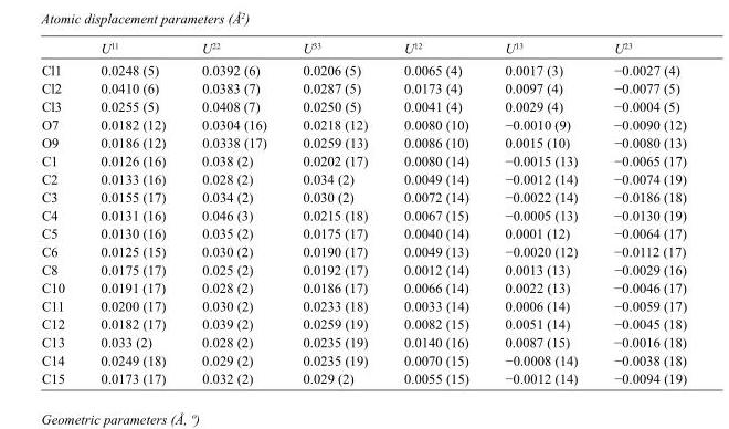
<table><thead><tr><td></td><td>U<sup>11</sup></td><td>U<sup>22</sup></td><td>U<sup>33</sup></td><td>U<sup>12</sup></td><td>U<sup>13</sup></td><td>U<sup>23</sup></td></tr></thead><tbody><tr><td>Cl1</td><td>0.0248 (5)</td><td>0.0392 (6)</td><td>0.0206 (5)</td><td>0.0065 (4)</td><td>0.0017 (3)</td><td>−0.0027 (4)</td></tr><tr><td>Cl2</td><td>0.0410 (6)</td><td>0.0383 (7)</td><td>0.0287 (5)</td><td>0.0173 (4)</td><td>0.0097 (4)</td><td>−0.0077 (5)</td></tr><tr><td>Cl3</td><td>0.0255 (5)</td><td>0.0408 (7)</td><td>0.0250 (5)</td><td>0.0041 (4)</td><td>0.0029 (4)</td><td>−0.0004 (5)</td></tr><tr><td>O7</td><td>0.0182 (12)</td><td>0.0304 (16)</td><td>0.0218 (12)</td><td>0.0080 (10)</td><td>−0.0010 (9)</td><td>−0.0090 (12)</td></tr><tr><td>O9</td><td>0.0186 (12)</td><td>0.0338 (17)</td><td>0.0259 (13)</td><td>0.0086 (10)</td><td>0.0015 (10)</td><td>−0.0080 (13)</td></tr><tr><td>C1</td><td>0.0126 (16)</td><td>0.038 (2)</td><td>0.0202 (17)</td><td>0.0080 (14)</td><td>−0.0015 (13)</td><td>−0.0065 (17)</td></tr><tr><td>C2</td><td>0.0133 (16)</td><td>0.028 (2)</td><td>0.034 (2)</td><td>0.0049 (14)</td><td>−0.0012 (14)</td><td>−0.0074 (19)</td></tr><tr><td>C3</td><td>0.0155 (17)</td><td>0.034 (2)</td><td>0.030 (2)</td><td>0.0072 (14)</td><td>−0.0022 (14)</td><td>−0.0186 (18)</td></tr><tr><td>C4</td><td>0.0131 (16)</td><td>0.046 (3)</td><td>0.0215 (18)</td><td>0.0067 (15)</td><td>−0.0005 (13)</td><td>−0.0130 (19)</td></tr><tr><td>C5</td><td>0.0130 (16)</td><td>0.035 (2)</td><td>0.0175 (17)</td><td>0.0040 (14)</td><td>0.0001 (12)</td><td>−0.0064 (17)</td></tr><tr><td>C6</td><td>0.0125 (15)</td><td>0.030 (2)</td><td>0.0190 (17)</td><td>0.0049 (13)</td><td>−0.0020 (12)</td><td>−0.0112 (17)</td></tr><tr><td>C8</td><td>0.0175 (17)</td><td>0.025 (2)</td><td>0.0192 (17)</td><td>0.0012 (14)</td><td>0.0013 (13)</td><td>−0.0029 (16)</td></tr><tr><td>C10</td><td>0.0191 (17)</td><td>0.028 (2)</td><td>0.0186 (17)</td><td>0.0066 (14)</td><td>0.0022 (13)</td><td>−0.0046 (17)</td></tr><tr><td>C11</td><td>0.0200 (17)</td><td>0.030 (2)</td><td>0.0233 (18)</td><td>0.0033 (14)</td><td>0.0006 (14)</td><td>−0.0059 (17)</td></tr><tr><td>C12</td><td>0.0182 (17)</td><td>0.039 (2)</td><td>0.0259 (19)</td><td>0.0082 (15)</td><td>0.0051 (14)</td><td>−0.0045 (18)</td></tr><tr><td>C13</td><td>0.033 (2)</td><td>0.028 (2)</td><td>0.0235 (19)</td><td>0.0140 (16)</td><td>0.0087 (15)</td><td>−0.0016 (18)</td></tr><tr><td>C14</td><td>0.0249 (18)</td><td>0.029 (2)</td><td>0.0235 (19)</td><td>0.0070 (15)</td><td>−0.0008 (14)</td><td>−0.0038 (18)</td></tr><tr><td>C15</td><td>0.0173 (17)</td><td>0.032 (2)</td><td>0.029 (2)</td><td>0.0055 (15)</td><td>−0.0012 (14)</td><td>−0.0094 (19)</td></tr></tbody></table>